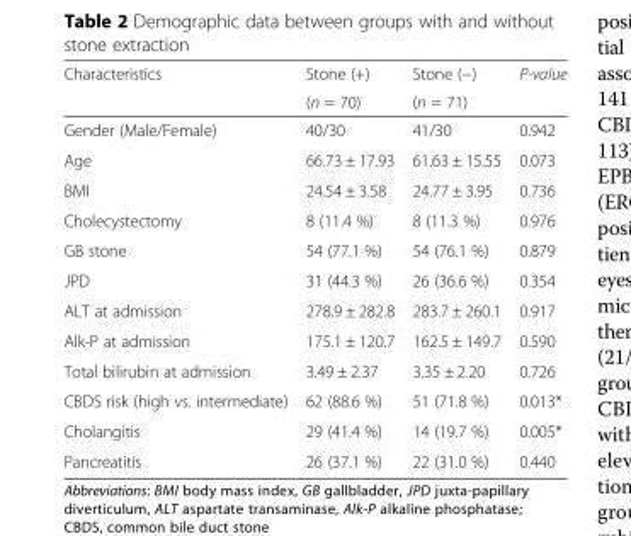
<table><thead><tr><td rowspan="2">Characteristics</td><td rowspan="2">Stone (+) (n = 70)</td><td rowspan="2">Stone (−) (n = 71)</td><td rowspan="2">P-value</td></tr><tr></tr></thead><tbody><tr><td>Gender (Male/Female)</td><td>40/30</td><td>41/30</td><td>0.942</td></tr><tr><td>Age</td><td>66.73 ± 17.93</td><td>61.63 ± 15.55</td><td>0.073</td></tr><tr><td>BMI</td><td>24.54 ± 3.58</td><td>24.77 ± 3.95</td><td>0.736</td></tr><tr><td>Cholecystectomy</td><td>8 (11.4 %)</td><td>8 (11.3 %)</td><td>0.976</td></tr><tr><td>GB stone</td><td>54 (77.1 %)</td><td>54 (76.1 %)</td><td>0.879</td></tr><tr><td>JPD</td><td>31 (44.3 %)</td><td>26 (36.6 %)</td><td>0.354</td></tr><tr><td>ALT at admission</td><td>278.9 ± 282.8</td><td>283.7 ± 260.1</td><td>0.917</td></tr><tr><td>Alk-P at admission</td><td>175.1 ± 120.7</td><td>162.5 ± 149.7</td><td>0.590</td></tr><tr><td>Total bilirubin at admission</td><td>3.49 ± 2.37</td><td>3.35 ± 2.20</td><td>0.726</td></tr><tr><td>CBDS risk (high vs. intermediate)</td><td>62 (88.6 %)</td><td>51 (71.8 %)</td><td>0.013*</td></tr><tr><td>Cholangitis</td><td>29 (41.4 %)</td><td>14 (19.7 %)</td><td>0.005*</td></tr><tr><td>Pancreatitis</td><td>26 (37.1 %)</td><td>22 (31.0 %)</td><td>0.440</td></tr></tbody></table>